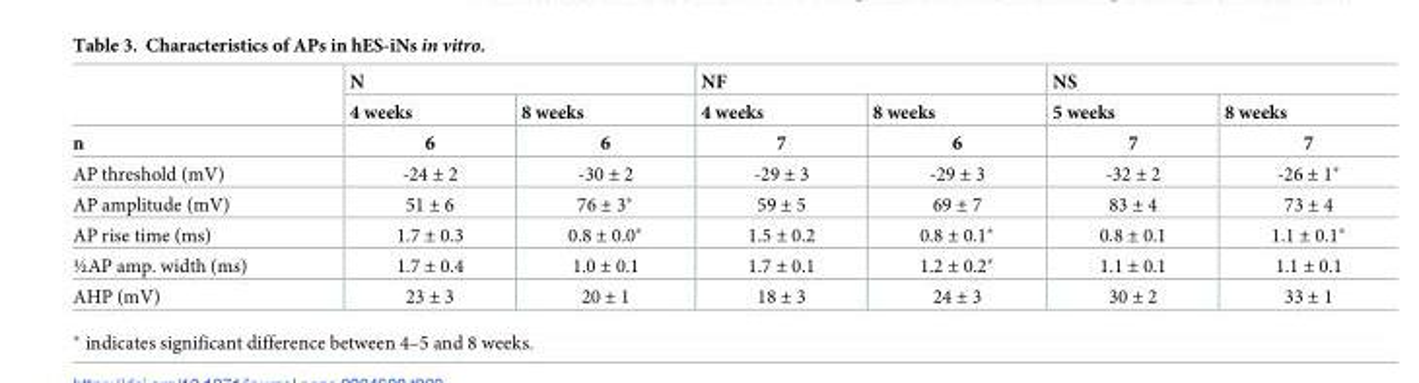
<table><thead><tr><td rowspan="3">n</td><td colspan="2">N</td><td colspan="2">NF</td><td colspan="2">NS</td></tr><tr><td rowspan="2">4 weeks 6</td><td rowspan="2">8 weeks 6</td><td rowspan="2">4 weeks 7</td><td rowspan="2">8 weeks 6</td><td rowspan="2">5 weeks 7</td><td rowspan="2">8 weeks 7</td></tr><tr></tr></thead><tbody><tr><td>AP threshold (mV)</td><td>-24 ± 2</td><td>-30 ± 2</td><td>-29 ± 3</td><td>-29 ± 3</td><td>-32 ± 2</td><td>-26 ± 1*</td></tr><tr><td>AP amplitude (mV)</td><td>51 ± 6</td><td>76 ± 3*</td><td>59 ± 5</td><td>69 ± 7</td><td>83 ± 4</td><td>73 ± 4</td></tr><tr><td>AP rise time (ms)</td><td>1.7 ± 0.3</td><td>0.8 ± 0.0*</td><td>1.5 ± 0.2</td><td>0.8 ± 0.1*</td><td>0.8 ± 0.1</td><td>1.1 ± 0.1*</td></tr><tr><td>½AP amp. width (ms)</td><td>1.7 ± 0.4</td><td>1.0 ± 0.1</td><td>1.7 ± 0.1</td><td>1.2 ± 0.2*</td><td>1.1 ± 0.1</td><td>1.1 ± 0.1</td></tr><tr><td>AHP (mV)</td><td>23 ± 3</td><td>20 ± 1</td><td>18 ± 3</td><td>24 ± 3</td><td>30 ± 2</td><td>33 ± 1</td></tr></tbody></table>